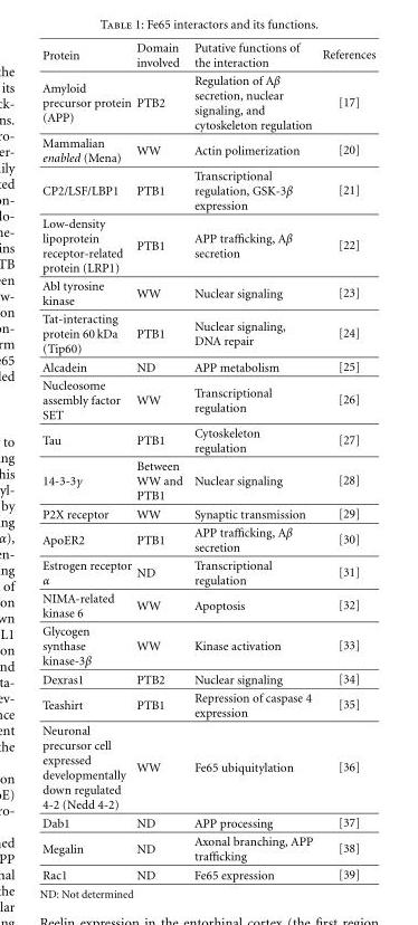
<table><thead><tr><td>Protein</td><td>Domain involved</td><td>Putative functions of the interaction</td><td>References</td></tr></thead><tbody><tr><td>Amyloid precursor protein (APP)</td><td>PTB2</td><td>Regulation of Aβ secretion, nuclear signaling, and cytoskeleton regulation</td><td>[17]</td></tr><tr><td>Mammalian enabled (Mena)</td><td>WW</td><td>Actin polimerization</td><td>[20]</td></tr><tr><td>CP2/LSF/LBP1</td><td>PTB1</td><td>Transcriptional regulation, GSK-3β expression</td><td>[21]</td></tr><tr><td>Low-density lipoprotein receptor-related protein (LRP1)</td><td>PTB1</td><td>APP trafficking, Aβ secretion</td><td>[22]</td></tr><tr><td>Abl tyrosine kinase</td><td>WW</td><td>Nuclear signaling</td><td>[23]</td></tr><tr><td>Tat-interacting protein 60 kDa (Tip60)</td><td>PTB1</td><td>Nuclear signaling, DNA repair</td><td>[24]</td></tr><tr><td>Alcadein</td><td>ND</td><td>APP metabolism</td><td>[25]</td></tr><tr><td>Nucleosome assembly factor SET</td><td>WW</td><td>Transcriptional regulation</td><td>[26]</td></tr><tr><td>Tau</td><td>PTB1</td><td>Cytoskeleton regulation</td><td>[27]</td></tr><tr><td>14-3-3γ</td><td>Between WW and PTB1</td><td>Nuclear signaling</td><td>[28]</td></tr><tr><td>P2X receptor</td><td>WW</td><td>Synaptic transmission</td><td>[29]</td></tr><tr><td>ApoER2</td><td>PTB1</td><td>APP trafficking, Aβ secretion</td><td>[30]</td></tr><tr><td>Estrogen receptor α</td><td>ND</td><td>Transcriptional regulation</td><td>[31]</td></tr><tr><td>NIMA-related kinase 6</td><td>WW</td><td>Apoptosis</td><td>[32]</td></tr><tr><td>Glycogen synthase kinase-3β</td><td>WW</td><td>Kinase activation</td><td>[33]</td></tr><tr><td>Dexras1</td><td>PTB2</td><td>Nuclear signaling</td><td>[34]</td></tr><tr><td>Teashirt</td><td>PTB1</td><td>Repression of caspase 4 expression</td><td>[35]</td></tr><tr><td>Neuronal precursor cell expressed developmentally down regulated 4-2 (Nedd 4-2)</td><td>WW</td><td>Fe65 ubiquitylation</td><td>[36]</td></tr><tr><td>Dab1</td><td>ND</td><td>APP processing</td><td>[37]</td></tr><tr><td>Megalin</td><td>ND</td><td>Axonal branching, APP trafficking</td><td>[38]</td></tr><tr><td>Rac1</td><td>ND</td><td>Fe65 expression</td><td>[39]</td></tr></tbody></table>